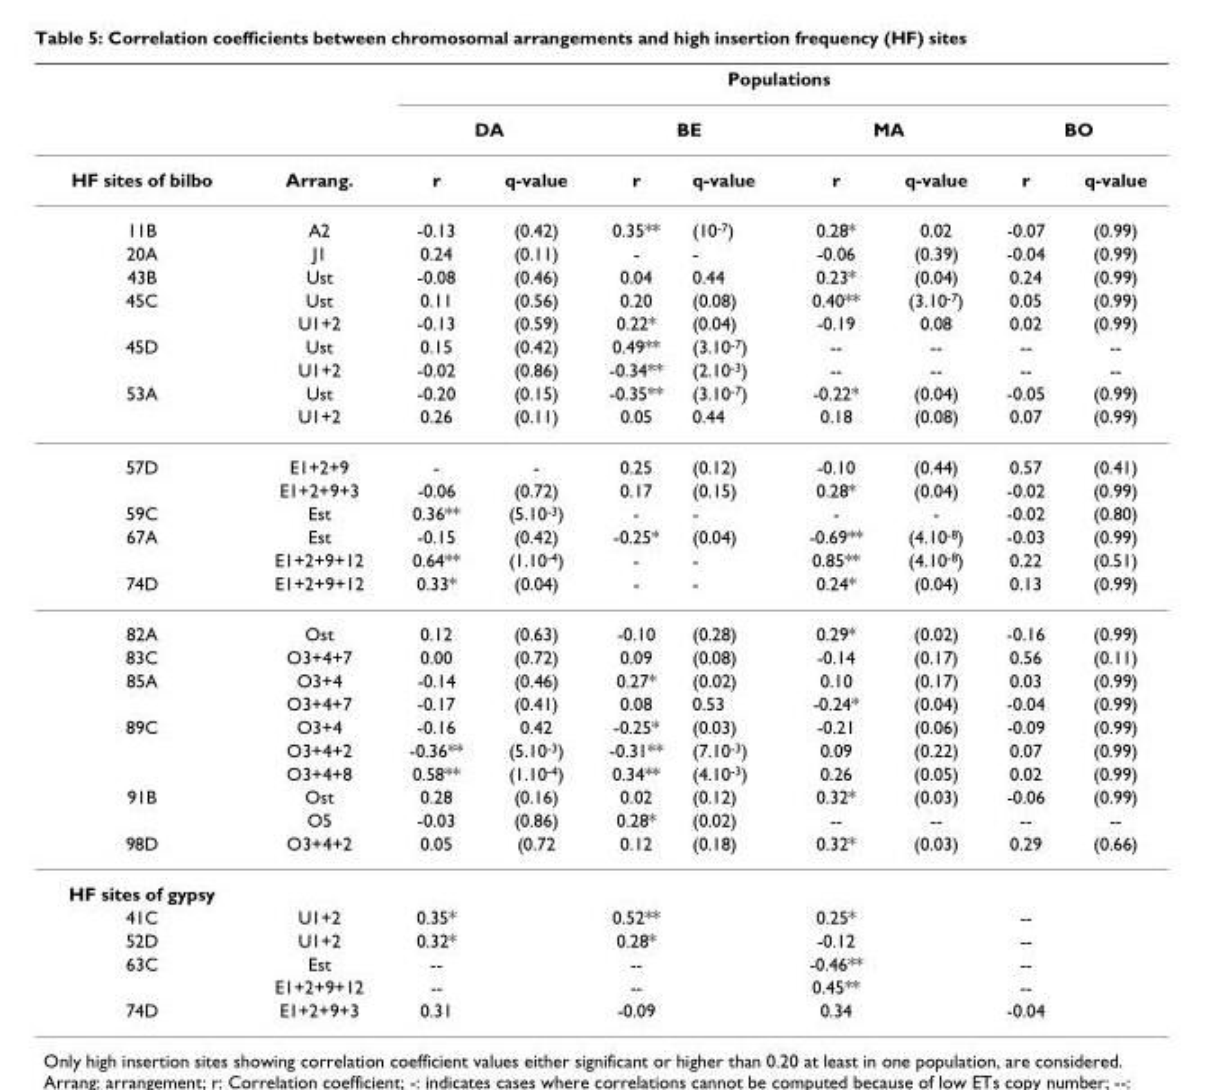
<table><thead><tr><td rowspan="3">HF sites of bilbo</td><td rowspan="3">Arrang.</td><td colspan="8">Populations</td></tr><tr><td colspan="2">DA</td><td colspan="2">BE</td><td colspan="2">MA</td><td colspan="2">BO</td></tr><tr><td>r</td><td>q-value</td><td>r</td><td>q-value</td><td>r</td><td>q-value</td><td>r</td><td>q-value</td></tr></thead><tbody><tr><td>11B</td><td>A2</td><td>-0.13</td><td>(0.42)</td><td>0.35**</td><td>(10<sup>-7</sup>)</td><td>0.28*</td><td>0.02</td><td>-0.07</td><td>(0.99)</td></tr><tr><td>20A</td><td>J1</td><td>0.24</td><td>(0.11)</td><td>-</td><td>-</td><td>-0.06</td><td>(0.39)</td><td>-0.04</td><td>(0.99)</td></tr><tr><td>43B</td><td>Ust</td><td>-0.08</td><td>(0.46)</td><td>0.04</td><td>0.44</td><td>0.23*</td><td>(0.04)</td><td>0.24</td><td>(0.99)</td></tr><tr><td rowspan="2">45C</td><td>Ust</td><td>0.11</td><td>(0.56)</td><td>0.20</td><td>(0.08)</td><td>0.40**</td><td>(3.10<sup>-7</sup>)</td><td>0.05</td><td>(0.99)</td></tr><tr><td>U1+2</td><td>-0.13</td><td>(0.59)</td><td>0.22*</td><td>(0.04)</td><td>-0.19</td><td>0.08</td><td>0.02</td><td>(0.99)</td></tr><tr><td rowspan="2">45D</td><td>Ust</td><td>0.15</td><td>(0.42)</td><td>0.49**</td><td>(3.10<sup>-7</sup>)</td><td>--</td><td>--</td><td>--</td><td>--</td></tr><tr><td>U1+2</td><td>-0.02</td><td>(0.86)</td><td>-0.34**</td><td>(2.10<sup>-3</sup>)</td><td>--</td><td>--</td><td>--</td><td>--</td></tr><tr><td rowspan="2">53A</td><td>Ust</td><td>-0.20</td><td>(0.15)</td><td>-0.35**</td><td>(3.10<sup>-7</sup>)</td><td>-0.22*</td><td>(0.04)</td><td>-0.05</td><td>(0.99)</td></tr><tr><td>U1+2</td><td>0.26</td><td>(0.11)</td><td>0.05</td><td>0.44</td><td>0.18</td><td>(0.08)</td><td>0.07</td><td>(0.99)</td></tr><tr><td rowspan="2">57D</td><td>E1+2+9</td><td>-</td><td>-</td><td>0.25</td><td>(0.12)</td><td>-0.10</td><td>(0.44)</td><td>0.57</td><td>(0.41)</td></tr><tr><td>E1+2+9+3</td><td>-0.06</td><td>(0.72)</td><td>0.17</td><td>(0.15)</td><td>0.28*</td><td>(0.04)</td><td>-0.02</td><td>(0.99)</td></tr><tr><td>59C</td><td>Est</td><td>0.36**</td><td>(5.10<sup>-3</sup>)</td><td>-</td><td>-</td><td>-</td><td>-</td><td>-0.02</td><td>(0.80)</td></tr><tr><td rowspan="2">67A</td><td>Est</td><td>-0.15</td><td>(0.42)</td><td>-0.25*</td><td>(0.04)</td><td>-0.69**</td><td>(4.10<sup>-8</sup>)</td><td>-0.03</td><td>(0.99)</td></tr><tr><td>E1+2+9+12</td><td>0.64**</td><td>(1.10<sup>-4</sup>)</td><td>-</td><td>-</td><td>0.85**</td><td>(4.10<sup>-8</sup>)</td><td>0.22</td><td>(0.51)</td></tr><tr><td>74D</td><td>E1+2+9+12</td><td>0.33*</td><td>(0.04)</td><td>-</td><td>-</td><td>0.24*</td><td>(0.04)</td><td>0.13</td><td>(0.99)</td></tr><tr><td>82A</td><td>Ost</td><td>0.12</td><td>(0.63)</td><td>-0.10</td><td>(0.28)</td><td>0.29*</td><td>(0.02)</td><td>-0.16</td><td>(0.99)</td></tr><tr><td>83C</td><td>O3+4+7</td><td>0.00</td><td>(0.72)</td><td>0.09</td><td>(0.08)</td><td>-0.14</td><td>(0.17)</td><td>0.56</td><td>(0.11)</td></tr><tr><td rowspan="2">85A</td><td>O3+4</td><td>-0.14</td><td>(0.46)</td><td>0.27*</td><td>(0.02)</td><td>0.10</td><td>(0.17)</td><td>0.03</td><td>(0.99)</td></tr><tr><td>O3+4+7</td><td>-0.17</td><td>(0.41)</td><td>0.08</td><td>0.53</td><td>-0.24*</td><td>(0.04)</td><td>-0.04</td><td>(0.99)</td></tr><tr><td rowspan="3">89C</td><td>O3+4</td><td>-0.16</td><td>0.42</td><td>-0.25*</td><td>(0.03)</td><td>-0.21</td><td>(0.06)</td><td>-0.09</td><td>(0.99)</td></tr><tr><td>O3+4+2</td><td>-0.36**</td><td>(5.10<sup>-3</sup>)</td><td>-0.31**</td><td>(7.10<sup>-3</sup>)</td><td>0.09</td><td>(0.22)</td><td>0.07</td><td>(0.99)</td></tr><tr><td>O3+4+8</td><td>0.58**</td><td>(1.10<sup>-4</sup>)</td><td>0.34**</td><td>(4.10<sup>-3</sup>)</td><td>0.26</td><td>(0.05)</td><td>0.02</td><td>(0.99)</td></tr><tr><td rowspan="2">91B</td><td>Ost</td><td>0.28</td><td>(0.16)</td><td>0.02</td><td>(0.12)</td><td>0.32*</td><td>(0.03)</td><td>-0.06</td><td>(0.99)</td></tr><tr><td>O5</td><td>-0.03</td><td>(0.86)</td><td>0.28*</td><td>(0.02)</td><td>--</td><td>--</td><td>--</td><td>--</td></tr><tr><td>98D</td><td>O3+4+2</td><td>0.05</td><td>(0.72</td><td>0.12</td><td>(0.18)</td><td>0.32*</td><td>(0.03)</td><td>0.29</td><td>(0.66)</td></tr><tr><td colspan="10">HF sites of gypsy</td></tr><tr><td>41C</td><td>U1+2</td><td>0.35*</td><td></td><td>0.52**</td><td></td><td>0.25*</td><td></td><td>--</td><td></td></tr><tr><td>52D</td><td>U1+2</td><td>0.32*</td><td></td><td>0.28*</td><td></td><td>-0.12</td><td></td><td>--</td><td></td></tr><tr><td rowspan="2">63C</td><td>Est</td><td>--</td><td></td><td>--</td><td></td><td>-0.46**</td><td></td><td>--</td><td></td></tr><tr><td>E1+2+9+12</td><td>--</td><td></td><td>--</td><td></td><td>0.45**</td><td></td><td>--</td><td></td></tr><tr><td>74D</td><td>E1+2+9+3</td><td>0.31</td><td></td><td>-0.09</td><td></td><td>0.34</td><td></td><td>-0.04</td><td></td></tr></tbody></table>